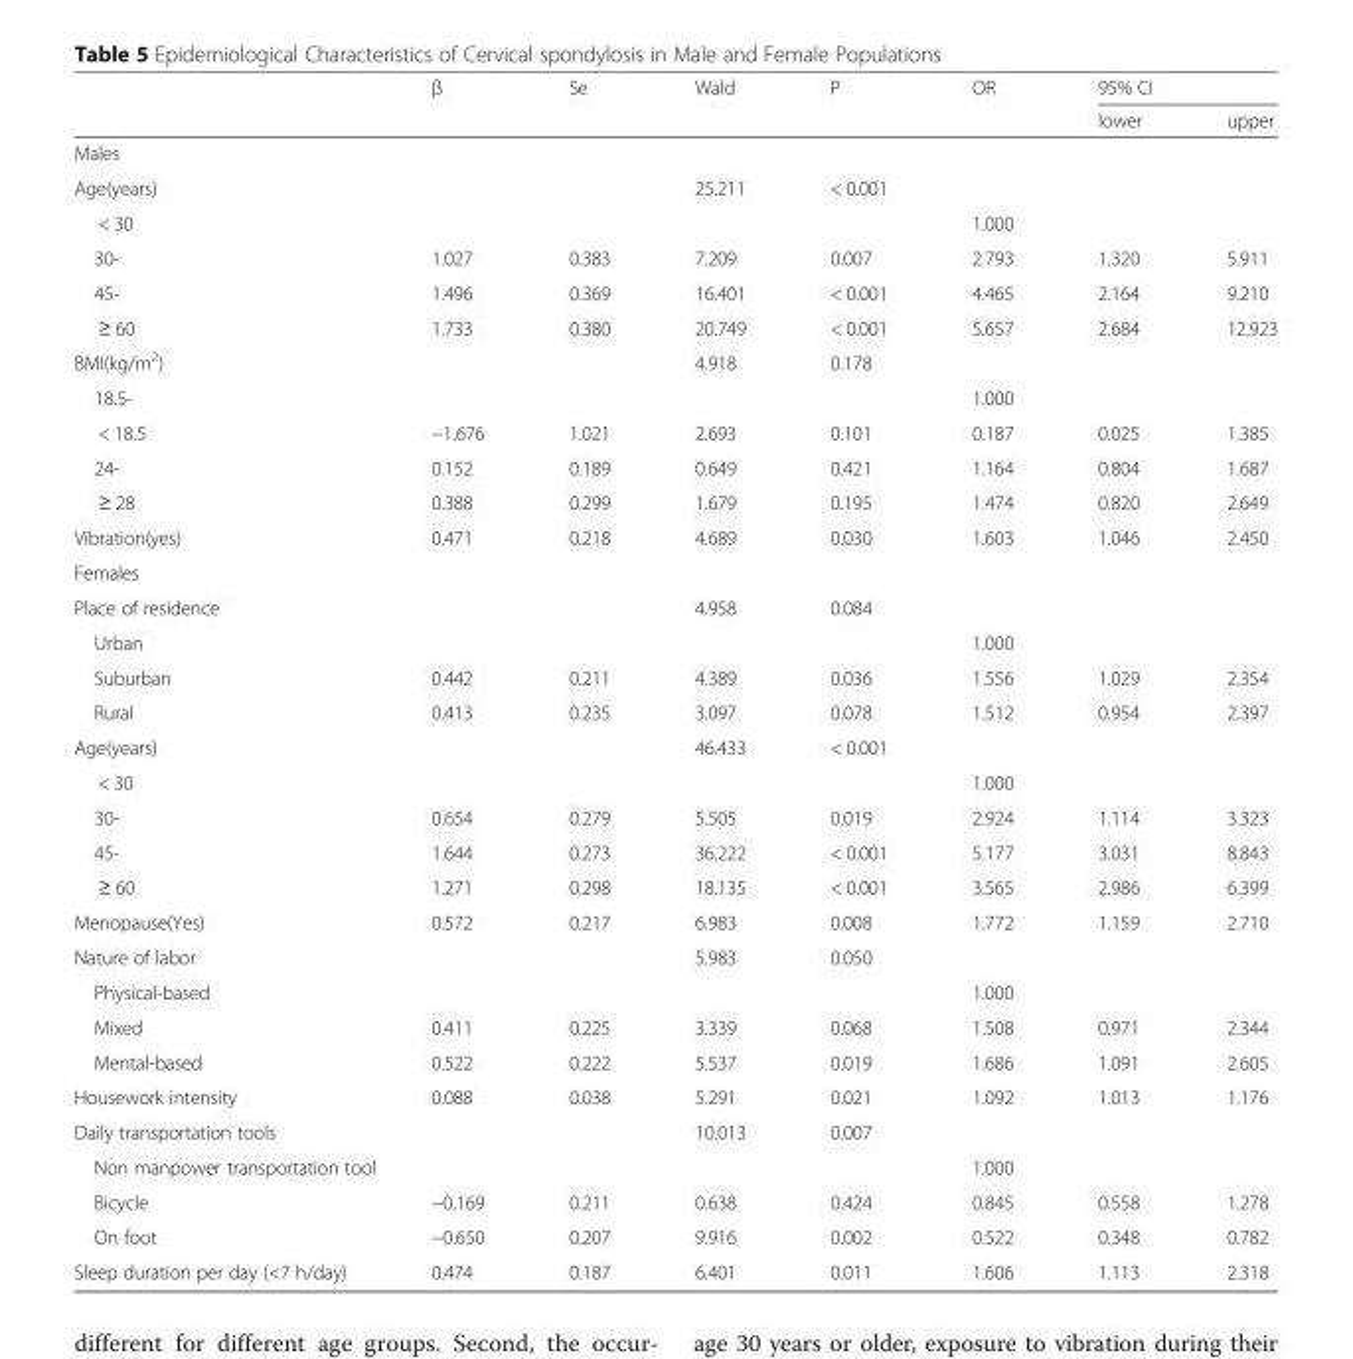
<table><thead><tr><td rowspan="2"></td><td rowspan="2">β</td><td rowspan="2">Se</td><td rowspan="2">Wald</td><td rowspan="2">P</td><td rowspan="2">OR</td><td colspan="2">95% CI</td></tr><tr><td>lower</td><td>upper</td></tr></thead><tbody><tr><td colspan="8">Males</td></tr><tr><td>Age(years)</td><td></td><td></td><td>25.211</td><td>&lt; 0.001</td><td></td><td></td><td></td></tr><tr><td>&lt; 30</td><td></td><td></td><td></td><td></td><td>1.000</td><td></td><td></td></tr><tr><td>30-</td><td>1.027</td><td>0.383</td><td>7.209</td><td>0.007</td><td>2.793</td><td>1.320</td><td>5.911</td></tr><tr><td>45-</td><td>1.496</td><td>0.369</td><td>16.401</td><td>&lt; 0.001</td><td>4.465</td><td>2.164</td><td>9.210</td></tr><tr><td>≥ 60</td><td>1.733</td><td>0.380</td><td>20.749</td><td>&lt; 0.001</td><td>5.657</td><td>2.684</td><td>12.923</td></tr><tr><td>BMI(kg/m<sup>2</sup>)</td><td></td><td></td><td>4.918</td><td>0.178</td><td></td><td></td><td></td></tr><tr><td>18.5-</td><td></td><td></td><td></td><td></td><td>1.000</td><td></td><td></td></tr><tr><td>&lt; 18.5</td><td>−1.676</td><td>1.021</td><td>2.693</td><td>0.101</td><td>0.187</td><td>0.025</td><td>1.385</td></tr><tr><td>24-</td><td>0.152</td><td>0.189</td><td>0.649</td><td>0.421</td><td>1.164</td><td>0.804</td><td>1.687</td></tr><tr><td>≥ 28</td><td>0.388</td><td>0.299</td><td>1.679</td><td>0.195</td><td>1.474</td><td>0.820</td><td>2.649</td></tr><tr><td>Vibration(yes)</td><td>0.471</td><td>0.218</td><td>4.689</td><td>0.030</td><td>1.603</td><td>1.046</td><td>2.450</td></tr><tr><td colspan="8">Females</td></tr><tr><td colspan="2">Place of residence</td><td></td><td>4.958</td><td>0.084</td><td></td><td></td><td></td></tr><tr><td>Urban</td><td></td><td></td><td></td><td></td><td>1.000</td><td></td><td></td></tr><tr><td>Suburban</td><td>0.442</td><td>0.211</td><td>4.389</td><td>0.036</td><td>1.556</td><td>1.029</td><td>2.354</td></tr><tr><td>Rural</td><td>0.413</td><td>0.235</td><td>3.097</td><td>0.078</td><td>1.512</td><td>0.954</td><td>2.397</td></tr><tr><td>Age(years)</td><td></td><td></td><td>46.433</td><td>&lt; 0.001</td><td></td><td></td><td></td></tr><tr><td>&lt; 30</td><td></td><td></td><td></td><td></td><td>1.000</td><td></td><td></td></tr><tr><td>30-</td><td>0.654</td><td>0.279</td><td>5.505</td><td>0.019</td><td>2.924</td><td>1.114</td><td>3.323</td></tr><tr><td>45-</td><td>1.644</td><td>0.273</td><td>36.222</td><td>&lt; 0.001</td><td>5.177</td><td>3.031</td><td>8.843</td></tr><tr><td>≥ 60</td><td>1.271</td><td>0.298</td><td>18.135</td><td>&lt; 0.001</td><td>3.565</td><td>2.986</td><td>6.399</td></tr><tr><td>Menopause(Yes)</td><td>0.572</td><td>0.217</td><td>6.983</td><td>0.008</td><td>1.772</td><td>1.159</td><td>2.710</td></tr><tr><td>Nature of labor</td><td></td><td></td><td>5.983</td><td>0.050</td><td></td><td></td><td></td></tr><tr><td>Physical-based</td><td></td><td></td><td></td><td></td><td>1.000</td><td></td><td></td></tr><tr><td>Mixed</td><td>0.411</td><td>0.225</td><td>3.339</td><td>0.068</td><td>1.508</td><td>0.971</td><td>2.344</td></tr><tr><td>Mental-based</td><td>0.522</td><td>0.222</td><td>5.537</td><td>0.019</td><td>1.686</td><td>1.091</td><td>2.605</td></tr><tr><td>Housework intensity</td><td>0.088</td><td>0.038</td><td>5.291</td><td>0.021</td><td>1.092</td><td>1.013</td><td>1.176</td></tr><tr><td colspan="2">Daily transportation tools</td><td></td><td>10.013</td><td>0.007</td><td></td><td></td><td></td></tr><tr><td colspan="3">Non manpower transportation tool</td><td></td><td></td><td>1.000</td><td></td><td></td></tr><tr><td>Bicycle</td><td>−0.169</td><td>0.211</td><td>0.638</td><td>0.424</td><td>0.845</td><td>0.558</td><td>1.278</td></tr><tr><td>On foot</td><td>−0.650</td><td>0.207</td><td>9.916</td><td>0.002</td><td>0.522</td><td>0.348</td><td>0.782</td></tr><tr><td>Sleep duration per day (&lt;7 h/day)</td><td>0.474</td><td>0.187</td><td>6.401</td><td>0.011</td><td>1.606</td><td>1.113</td><td>2.318</td></tr></tbody></table>